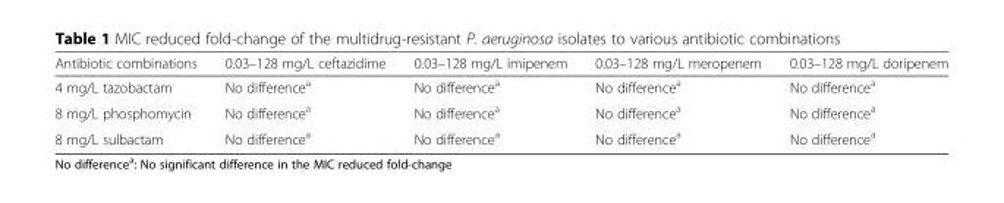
<table><thead><tr><td>Antibiotic combinations</td><td>0.03–128 mg/L ceftazidime</td><td>0.03–128 mg/L imipenem</td><td>0.03–128 mg/L meropenem</td><td>0.03–128 mg/L doripenem</td></tr></thead><tbody><tr><td>4 mg/L tazobactam</td><td>No difference<sup>a</sup></td><td>No difference<sup>a</sup></td><td>No difference<sup>a</sup></td><td>No difference<sup>a</sup></td></tr><tr><td>8 mg/L phosphomycin</td><td>No difference<sup>a</sup></td><td>No difference<sup>a</sup></td><td>No difference<sup>a</sup></td><td>No difference<sup>a</sup></td></tr><tr><td>8 mg/L sulbactam</td><td>No difference<sup>a</sup></td><td>No difference<sup>a</sup></td><td>No difference<sup>a</sup></td><td>No difference<sup>a</sup></td></tr></tbody></table>